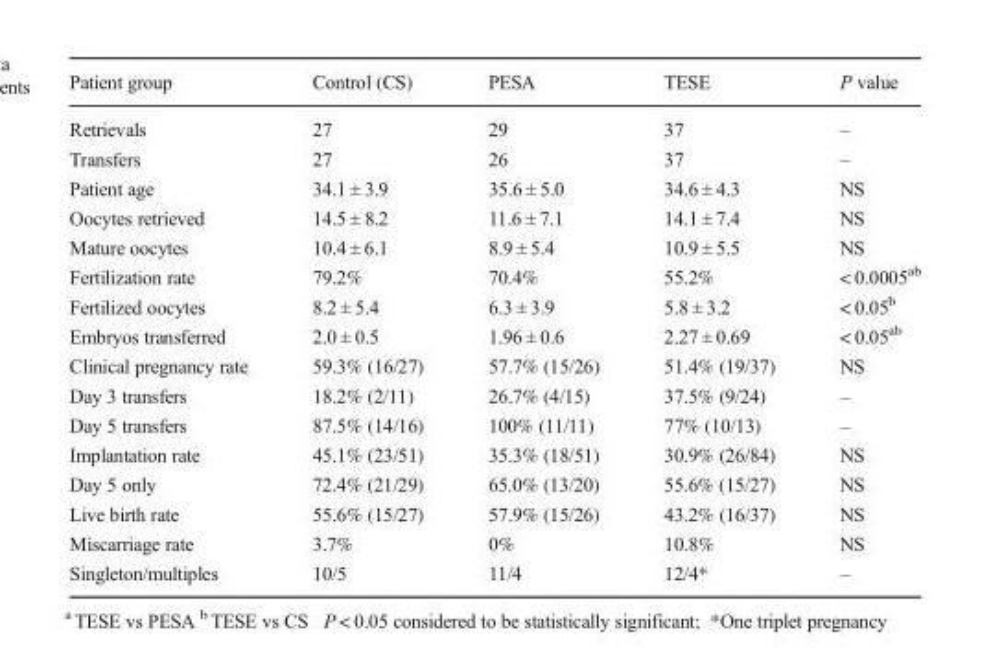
<table><thead><tr><td>Patient group</td><td>Control (CS)</td><td>PESA</td><td>TESE</td><td>P value</td></tr></thead><tbody><tr><td>Retrievals</td><td>27</td><td>29</td><td>37</td><td>–</td></tr><tr><td>Transfers</td><td>27</td><td>26</td><td>37</td><td>–</td></tr><tr><td>Patient age</td><td>34.1 ± 3.9</td><td>35.6 ± 5.0</td><td>34.6 ± 4.3</td><td>NS</td></tr><tr><td>Oocytes retrieved</td><td>14.5 ± 8.2</td><td>11.6 ± 7.1</td><td>14.1 ± 7.4</td><td>NS</td></tr><tr><td>Mature oocytes</td><td>10.4 ± 6.1</td><td>8.9 ± 5.4</td><td>10.9 ± 5.5</td><td>NS</td></tr><tr><td>Fertilization rate</td><td>79.2%</td><td>70.4%</td><td>55.2%</td><td>&lt; 0.0005<sup>ab</sup></td></tr><tr><td>Fertilized oocytes</td><td>8.2 ± 5.4</td><td>6.3 ± 3.9</td><td>5.8 ± 3.2</td><td>&lt; 0.05<sup>b</sup></td></tr><tr><td>Embryos transferred</td><td>2.0 ± 0.5</td><td>1.96 ± 0.6</td><td>2.27 ± 0.69</td><td>&lt; 0.05<sup>ab</sup></td></tr><tr><td>Clinical pregnancy rate</td><td>59.3% (16/27)</td><td>57.7% (15/26)</td><td>51.4% (19/37)</td><td>NS</td></tr><tr><td>Day 3 transfers</td><td>18.2% (2/11)</td><td>26.7% (4/15)</td><td>37.5% (9/24)</td><td>–</td></tr><tr><td>Day 5 transfers</td><td>87.5% (14/16)</td><td>100% (11/11)</td><td>77% (10/13)</td><td>–</td></tr><tr><td>Implantation rate</td><td>45.1% (23/51)</td><td>35.3% (18/51)</td><td>30.9% (26/84)</td><td>NS</td></tr><tr><td>Day 5 only</td><td>72.4% (21/29)</td><td>65.0% (13/20)</td><td>55.6% (15/27)</td><td>NS</td></tr><tr><td>Live birth rate</td><td>55.6% (15/27)</td><td>57.9% (15/26)</td><td>43.2% (16/37)</td><td>NS</td></tr><tr><td>Miscarriage rate</td><td>3.7%</td><td>0%</td><td>10.8%</td><td>NS</td></tr><tr><td>Singleton/multiples</td><td>10/5</td><td>11/4</td><td>12/4*</td><td>–</td></tr></tbody></table>